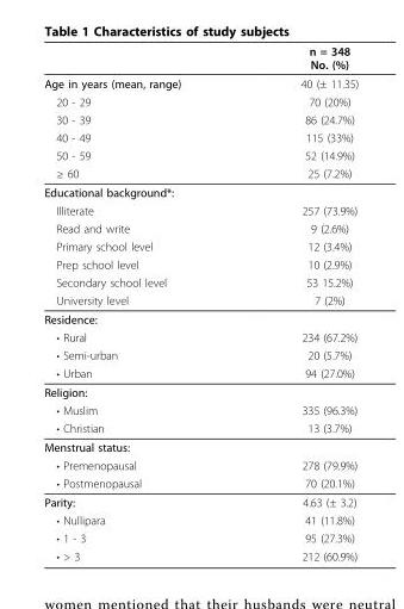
<table><thead><tr><td></td><td>n = 348 No. (%)</td></tr></thead><tbody><tr><td>Age in years (mean, range)</td><td>40 (± 11.35)</td></tr><tr><td>20 - 29</td><td>70 (20%)</td></tr><tr><td>30 - 39</td><td>86 (24.7%)</td></tr><tr><td>40 - 49</td><td>115 (33%)</td></tr><tr><td>50 - 59</td><td>52 (14.9%)</td></tr><tr><td>≥ 60</td><td>25 (7.2%)</td></tr><tr><td colspan="2">Educational background*:</td></tr><tr><td>Illiterate</td><td>257 (73.9%)</td></tr><tr><td>Read and write</td><td>9 (2.6%)</td></tr><tr><td>Primary school level</td><td>12 (3.4%)</td></tr><tr><td>Prep school level</td><td>10 (2.9%)</td></tr><tr><td>Secondary school level</td><td>53 15.2%)</td></tr><tr><td>University level</td><td>7 (2%)</td></tr><tr><td colspan="2">Residence:</td></tr><tr><td>• Rural</td><td>234 (67.2%)</td></tr><tr><td>• Semi-urban</td><td>20 (5.7%)</td></tr><tr><td>• Urban</td><td>94 (27.0%)</td></tr><tr><td colspan="2">Religion:</td></tr><tr><td>• Muslim</td><td>335 (96.3%)</td></tr><tr><td>• Christian</td><td>13 (3.7%)</td></tr><tr><td colspan="2">Menstrual status:</td></tr><tr><td>• Premenopausal</td><td>278 (79.9%)</td></tr><tr><td>• Postmenopausal</td><td>70 (20.1%)</td></tr><tr><td>Parity:</td><td>4.63 (± 3.2)</td></tr><tr><td>• Nullipara</td><td>41 (11.8%)</td></tr><tr><td>• 1 - 3</td><td>95 (27.3%)</td></tr><tr><td>• &gt; 3</td><td>212 (60.9%)</td></tr></tbody></table>